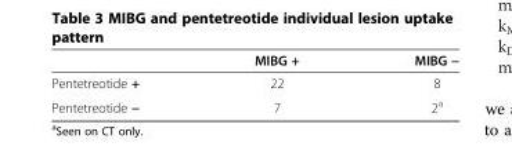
<table><thead><tr><td></td><td>MIBG +</td><td>MIBG −</td></tr></thead><tbody><tr><td>Pentetreotide +</td><td>22</td><td>8</td></tr><tr><td>Pentetreotide −</td><td>7</td><td>2<sup>a</sup></td></tr></tbody></table>